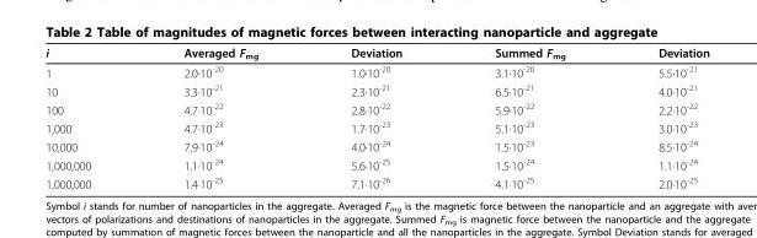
<table><thead><tr><td>i</td><td>Averaged F<sub>mg</sub></td><td>Deviation</td><td>Summed F<sub>mg</sub></td><td>Deviation</td></tr></thead><tbody><tr><td>1</td><td>2.0·10<sup>-20</sup></td><td>1.0·10<sup>-20</sup></td><td>3.1·10<sup>-20</sup></td><td>5.5·10<sup>-21</sup></td></tr><tr><td>10</td><td>3.3·10<sup>-21</sup></td><td>2.3·10<sup>-21</sup></td><td>6.5·10<sup>-21</sup></td><td>4.0·10<sup>-21</sup></td></tr><tr><td>100</td><td>4.7·10<sup>-22</sup></td><td>2.8·10<sup>-22</sup></td><td>5.9·10<sup>-22</sup></td><td>2.2·10<sup>-22</sup></td></tr><tr><td>1,000</td><td>4.7·10<sup>-23</sup></td><td>1.7·10<sup>-23</sup></td><td>5.1·10<sup>-23</sup></td><td>3.0·10<sup>-23</sup></td></tr><tr><td>10,000</td><td>7.9·10<sup>-24</sup></td><td>4.0·10<sup>-24</sup></td><td>1.5·10<sup>-23</sup></td><td>8.5·10<sup>-24</sup></td></tr><tr><td>1,000,000</td><td>1.1·10<sup>-24</sup></td><td>5.6·10<sup>-25</sup></td><td>1.5·10<sup>-24</sup></td><td>1.1·10<sup>-24</sup></td></tr><tr><td>1,000,000</td><td>1.4·10<sup>-25</sup></td><td>7.1·10<sup>-26</sup></td><td>4.1·10<sup>-25</sup></td><td>2.0·10<sup>-25</sup></td></tr></tbody></table>